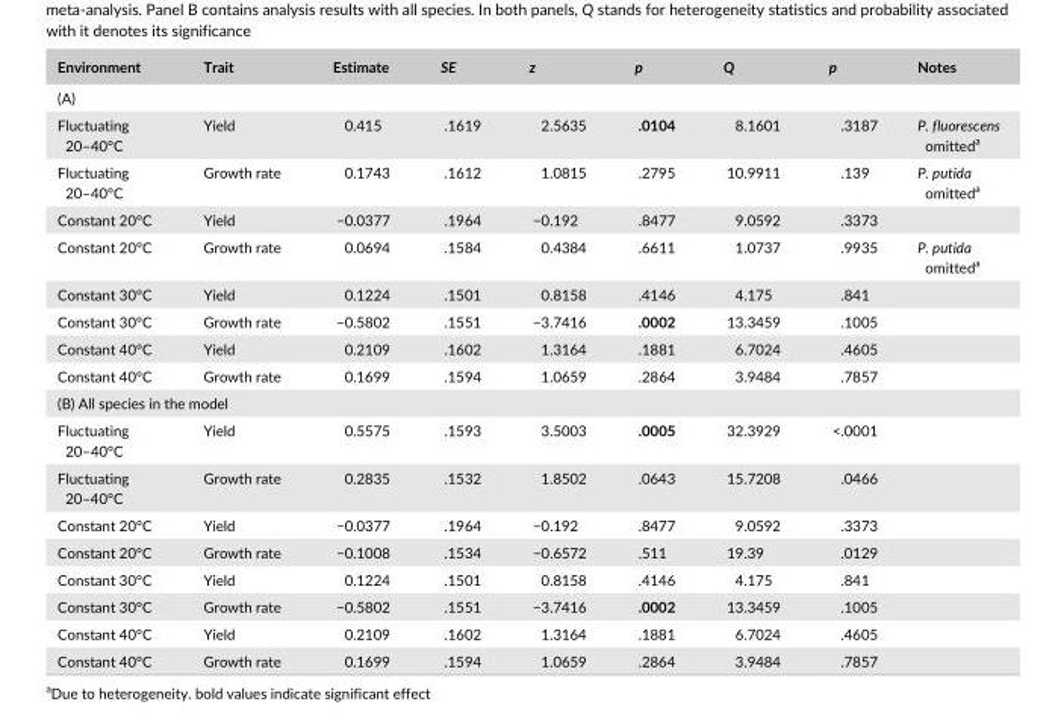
<table><thead><tr><td>Environment</td><td>Trait</td><td>Estimate</td><td>SE</td><td>z</td><td>p</td><td>Q</td><td>p</td><td>Notes</td></tr></thead><tbody><tr><td colspan="9">(A)</td></tr><tr><td>Fluctuating 20–40°C</td><td>Yield</td><td>0.415</td><td>.1619</td><td>2.5635</td><td>.0104</td><td>8.1601</td><td>.3187</td><td>P. fluorescens omitted<sup>a</sup></td></tr><tr><td>Fluctuating 20–40°C</td><td>Growth rate</td><td>0.1743</td><td>.1612</td><td>1.0815</td><td>.2795</td><td>10.9911</td><td>.139</td><td>P. putida omitted<sup>a</sup></td></tr><tr><td>Constant 20°C</td><td>Yield</td><td>−0.0377</td><td>.1964</td><td>−0.192</td><td>.8477</td><td>9.0592</td><td>.3373</td><td></td></tr><tr><td>Constant 20°C</td><td>Growth rate</td><td>0.0694</td><td>.1584</td><td>0.4384</td><td>.6611</td><td>1.0737</td><td>.9935</td><td>P. putida omitted<sup>a</sup></td></tr><tr><td>Constant 30°C</td><td>Yield</td><td>0.1224</td><td>.1501</td><td>0.8158</td><td>.4146</td><td>4.175</td><td>.841</td><td></td></tr><tr><td>Constant 30°C</td><td>Growth rate</td><td>−0.5802</td><td>.1551</td><td>−3.7416</td><td>.0002</td><td>13.3459</td><td>.1005</td><td></td></tr><tr><td>Constant 40°C</td><td>Yield</td><td>0.2109</td><td>.1602</td><td>1.3164</td><td>.1881</td><td>6.7024</td><td>.4605</td><td></td></tr><tr><td>Constant 40°C</td><td>Growth rate</td><td>0.1699</td><td>.1594</td><td>1.0659</td><td>.2864</td><td>3.9484</td><td>.7857</td><td></td></tr><tr><td colspan="9">(B) All species in the model</td></tr><tr><td>Fluctuating 20–40°C</td><td>Yield</td><td>0.5575</td><td>.1593</td><td>3.5003</td><td>.0005</td><td>32.3929</td><td>&lt;.0001</td><td></td></tr><tr><td>Fluctuating 20–40°C</td><td>Growth rate</td><td>0.2835</td><td>.1532</td><td>1.8502</td><td>.0643</td><td>15.7208</td><td>.0466</td><td></td></tr><tr><td>Constant 20°C</td><td>Yield</td><td>−0.0377</td><td>.1964</td><td>−0.192</td><td>.8477</td><td>9.0592</td><td>.3373</td><td></td></tr><tr><td>Constant 20°C</td><td>Growth rate</td><td>−0.1008</td><td>.1534</td><td>−0.6572</td><td>.511</td><td>19.39</td><td>.0129</td><td></td></tr><tr><td>Constant 30°C</td><td>Yield</td><td>0.1224</td><td>.1501</td><td>0.8158</td><td>.4146</td><td>4.175</td><td>.841</td><td></td></tr><tr><td>Constant 30°C</td><td>Growth rate</td><td>−0.5802</td><td>.1551</td><td>−3.7416</td><td>.0002</td><td>13.3459</td><td>.1005</td><td></td></tr><tr><td>Constant 40°C</td><td>Yield</td><td>0.2109</td><td>.1602</td><td>1.3164</td><td>.1881</td><td>6.7024</td><td>.4605</td><td></td></tr><tr><td>Constant 40°C</td><td>Growth rate</td><td>0.1699</td><td>.1594</td><td>1.0659</td><td>.2864</td><td>3.9484</td><td>.7857</td><td></td></tr></tbody></table>